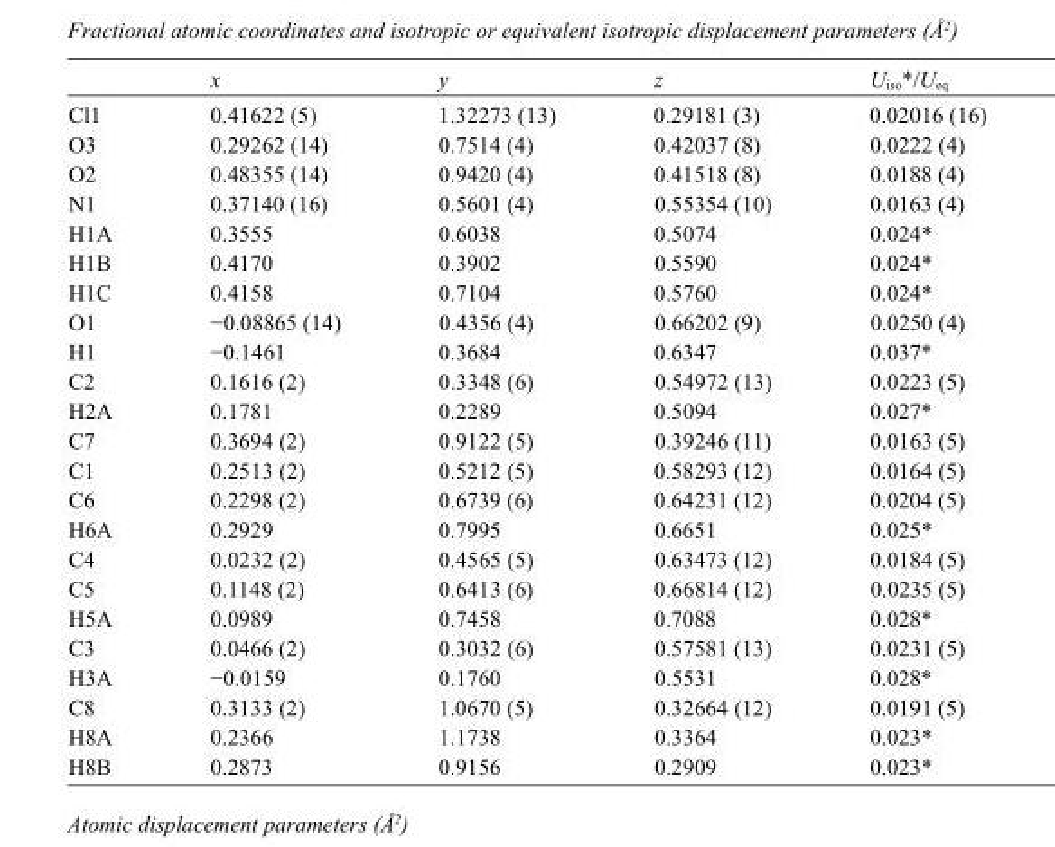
<table><thead><tr><td></td><td>x</td><td>y</td><td>z</td><td>U<sub>iso</sub>*/U<sub>eq</sub></td></tr></thead><tbody><tr><td>Cl1</td><td>0.41622 (5)</td><td>1.32273 (13)</td><td>0.29181 (3)</td><td>0.02016 (16)</td></tr><tr><td>O3</td><td>0.29262 (14)</td><td>0.7514 (4)</td><td>0.42037 (8)</td><td>0.0222 (4)</td></tr><tr><td>O2</td><td>0.48355 (14)</td><td>0.9420 (4)</td><td>0.41518 (8)</td><td>0.0188 (4)</td></tr><tr><td>N1</td><td>0.37140 (16)</td><td>0.5601 (4)</td><td>0.55354 (10)</td><td>0.0163 (4)</td></tr><tr><td>H1A</td><td>0.3555</td><td>0.6038</td><td>0.5074</td><td>0.024*</td></tr><tr><td>H1B</td><td>0.4170</td><td>0.3902</td><td>0.5590</td><td>0.024*</td></tr><tr><td>H1C</td><td>0.4158</td><td>0.7104</td><td>0.5760</td><td>0.024*</td></tr><tr><td>O1</td><td>−0.08865 (14)</td><td>0.4356 (4)</td><td>0.66202 (9)</td><td>0.0250 (4)</td></tr><tr><td>H1</td><td>−0.1461</td><td>0.3684</td><td>0.6347</td><td>0.037*</td></tr><tr><td>C2</td><td>0.1616 (2)</td><td>0.3348 (6)</td><td>0.54972 (13)</td><td>0.0223 (5)</td></tr><tr><td>H2A</td><td>0.1781</td><td>0.2289</td><td>0.5094</td><td>0.027*</td></tr><tr><td>C7</td><td>0.3694 (2)</td><td>0.9122 (5)</td><td>0.39246 (11)</td><td>0.0163 (5)</td></tr><tr><td>C1</td><td>0.2513 (2)</td><td>0.5212 (5)</td><td>0.58293 (12)</td><td>0.0164 (5)</td></tr><tr><td>C6</td><td>0.2298 (2)</td><td>0.6739 (6)</td><td>0.64231 (12)</td><td>0.0204 (5)</td></tr><tr><td>H6A</td><td>0.2929</td><td>0.7995</td><td>0.6651</td><td>0.025*</td></tr><tr><td>C4</td><td>0.0232 (2)</td><td>0.4565 (5)</td><td>0.63473 (12)</td><td>0.0184 (5)</td></tr><tr><td>C5</td><td>0.1148 (2)</td><td>0.6413 (6)</td><td>0.66814 (12)</td><td>0.0235 (5)</td></tr><tr><td>H5A</td><td>0.0989</td><td>0.7458</td><td>0.7088</td><td>0.028*</td></tr><tr><td>C3</td><td>0.0466 (2)</td><td>0.3032 (6)</td><td>0.57581 (13)</td><td>0.0231 (5)</td></tr><tr><td>H3A</td><td>−0.0159</td><td>0.1760</td><td>0.5531</td><td>0.028*</td></tr><tr><td>C8</td><td>0.3133 (2)</td><td>1.0670 (5)</td><td>0.32664 (12)</td><td>0.0191 (5)</td></tr><tr><td>H8A</td><td>0.2366</td><td>1.1738</td><td>0.3364</td><td>0.023*</td></tr><tr><td>H8B</td><td>0.2873</td><td>0.9156</td><td>0.2909</td><td>0.023*</td></tr></tbody></table>